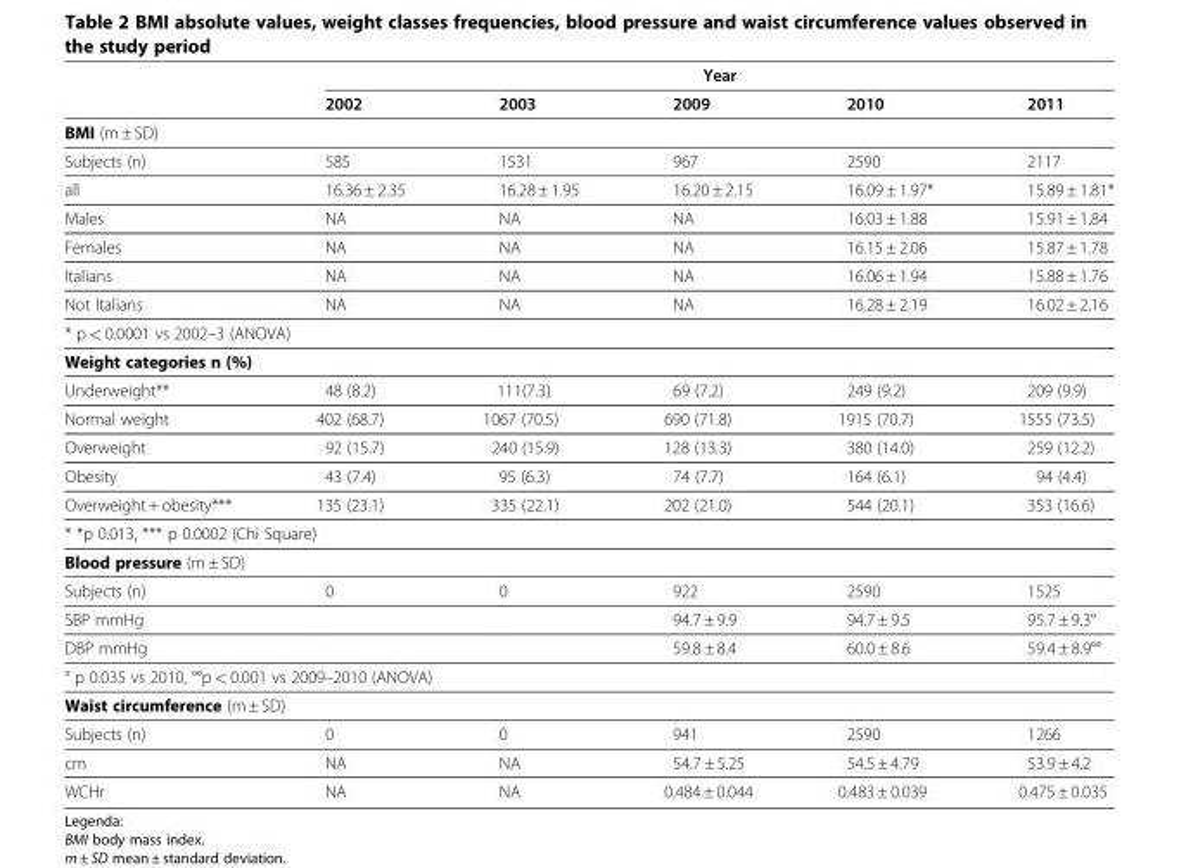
<table><thead><tr><td rowspan="2"></td><td colspan="5">Year</td></tr><tr><td>2002</td><td>2003</td><td>2009</td><td>2010</td><td>2011</td></tr></thead><tbody><tr><td colspan="6">BMI (m ± SD)</td></tr><tr><td>Subjects (n)</td><td>585</td><td>1531</td><td>967</td><td>2590</td><td>2117</td></tr><tr><td>all</td><td>16.36 ± 2.35</td><td>16.28 ± 1.95</td><td>16.20 ± 2.15</td><td>16.09 ± 1.97*</td><td>15.89 ± 1.81*</td></tr><tr><td>Males</td><td>NA</td><td>NA</td><td>NA</td><td>16.03 ± 1.88</td><td>15.91 ± 1.84</td></tr><tr><td>Females</td><td>NA</td><td>NA</td><td>NA</td><td>16.15 ± 2.06</td><td>15.87 ± 1.78</td></tr><tr><td>Italians</td><td>NA</td><td>NA</td><td>NA</td><td>16.06 ± 1.94</td><td>15.88 ± 1.76</td></tr><tr><td>Not Italians</td><td>NA</td><td>NA</td><td>NA</td><td>16.28 ± 2.19</td><td>16.02 ± 2.16</td></tr><tr><td colspan="6">* p &lt; 0.0001 vs 2002–3 (ANOVA)</td></tr><tr><td colspan="6">Weight categories n (%)</td></tr><tr><td>Underweight**</td><td>48 (8.2)</td><td>111(7.3)</td><td>69 (7.2)</td><td>249 (9.2)</td><td>209 (9.9)</td></tr><tr><td>Normal weight</td><td>402 (68.7)</td><td>1067 (70.5)</td><td>690 (71.8)</td><td>1915 (70.7)</td><td>1555 (73.5)</td></tr><tr><td>Overweight</td><td>92 (15.7)</td><td>240 (15.9)</td><td>128 (13.3)</td><td>380 (14.0)</td><td>259 (12.2)</td></tr><tr><td>Obesity</td><td>43 (7.4)</td><td>95 (6.3)</td><td>74 (7.7)</td><td>164 (6.1)</td><td>94 (4.4)</td></tr><tr><td>Overweight + obesity***</td><td>135 (23.1)</td><td>335 (22.1)</td><td>202 (21.0)</td><td>544 (20.1)</td><td>353 (16.6)</td></tr><tr><td colspan="6">* *p 0.013, *** p 0.0002 (Chi Square)</td></tr><tr><td colspan="6">Blood pressure (m ± SD)</td></tr><tr><td>Subjects (n)</td><td>0</td><td>0</td><td>922</td><td>2590</td><td>1525</td></tr><tr><td>SBP mmHg</td><td></td><td></td><td>94.7 ± 9.9</td><td>94.7 ± 9.5</td><td>95.7 ± 9.3°</td></tr><tr><td>DBP mmHg</td><td></td><td></td><td>59.8 ± 8.4</td><td>60.0 ± 8.6</td><td>59.4 ± 8.9°°</td></tr><tr><td colspan="6">° p 0.035 vs 2010, °°p &lt; 0.001 vs 2009–2010 (ANOVA)</td></tr><tr><td colspan="6">Waist circumference (m ± SD)</td></tr><tr><td>Subjects (n)</td><td>0</td><td>0</td><td>941</td><td>2590</td><td>1266</td></tr><tr><td>cm</td><td>NA</td><td>NA</td><td>54.7 ± 5.25</td><td>54.5 ± 4.79</td><td>53.9 ± 4.2</td></tr><tr><td>WCHr</td><td>NA</td><td>NA</td><td>0.484 ± 0.044</td><td>0.483 ± 0.039</td><td>0.475 ± 0.035</td></tr></tbody></table>